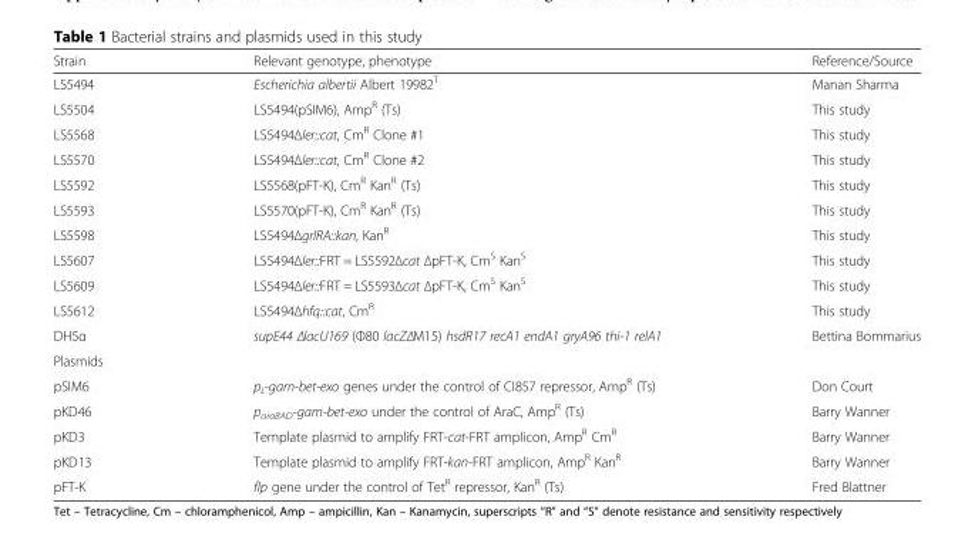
<table><thead><tr><td>Strain</td><td>Relevant genotype, phenotype</td><td>Reference/Source</td></tr></thead><tbody><tr><td>LS5494</td><td>Escherichia albertii Albert 19982<sup>T</sup></td><td>Manan Sharma</td></tr><tr><td>LS5504</td><td>LS5494(pSIM6), Amp<sup>R</sup> (Ts)</td><td>This study</td></tr><tr><td>LS5568</td><td>LS5494Δler::cat, CmR Clone #1</td><td>This study</td></tr><tr><td>LS5570</td><td>LS5494Δler::cat, CmR Clone #2</td><td>This study</td></tr><tr><td>LS5592</td><td>LS5568(pFT-K), Cm<sup>R</sup> Kan<sup>R</sup> (Ts)</td><td>This study</td></tr><tr><td>LS5593</td><td>LS5570(pFT-K), Cm<sup>R</sup> Kan<sup>R</sup> (Ts)</td><td>This study</td></tr><tr><td>LS5598</td><td>LS5494ΔgrlRA::kan, KanR</td><td>This study</td></tr><tr><td>LS5607</td><td>LS5494Δler::FRT = LS5592Δcat ΔpFT-K, CmS KanS</td><td>This study</td></tr><tr><td>LS5609</td><td>LS5494Δler::FRT = LS5593Δcat ΔpFT-K, CmS KanS</td><td>This study</td></tr><tr><td>LS5612</td><td>LS5494Δhfq::cat, CmR</td><td>This study</td></tr><tr><td>DH5α</td><td>supE44 ΔlacU169 (Φ80 lacZΔM15) hsdR17 recA1 endA1 gryA96 thi-1 relA1</td><td>Bettina Bommarius</td></tr><tr><td colspan="3">Plasmids</td></tr><tr><td>pSIM6</td><td>p<sub>L</sub>-gam-bet-exo genes under the control of CI857 repressor, Amp<sup>R</sup> (Ts)</td><td>Don Court</td></tr><tr><td>pKD46</td><td>p<sub>araBAD</sub>-gam-bet-exo under the control of AraC, Amp<sup>R</sup> (Ts)</td><td>Barry Wanner</td></tr><tr><td>pKD3</td><td>Template plasmid to amplify FRT-cat-FRT amplicon, Amp<sup>R</sup> Cm<sup>R</sup></td><td>Barry Wanner</td></tr><tr><td>pKD13</td><td>Template plasmid to amplify FRT-kan-FRT amplicon, Amp<sup>R</sup> Kan<sup>R</sup></td><td>Barry Wanner</td></tr><tr><td>pFT-K</td><td>flp gene under the control of Tet<sup>R</sup> repressor, Kan<sup>R</sup> (Ts)</td><td>Fred Blattner</td></tr></tbody></table>